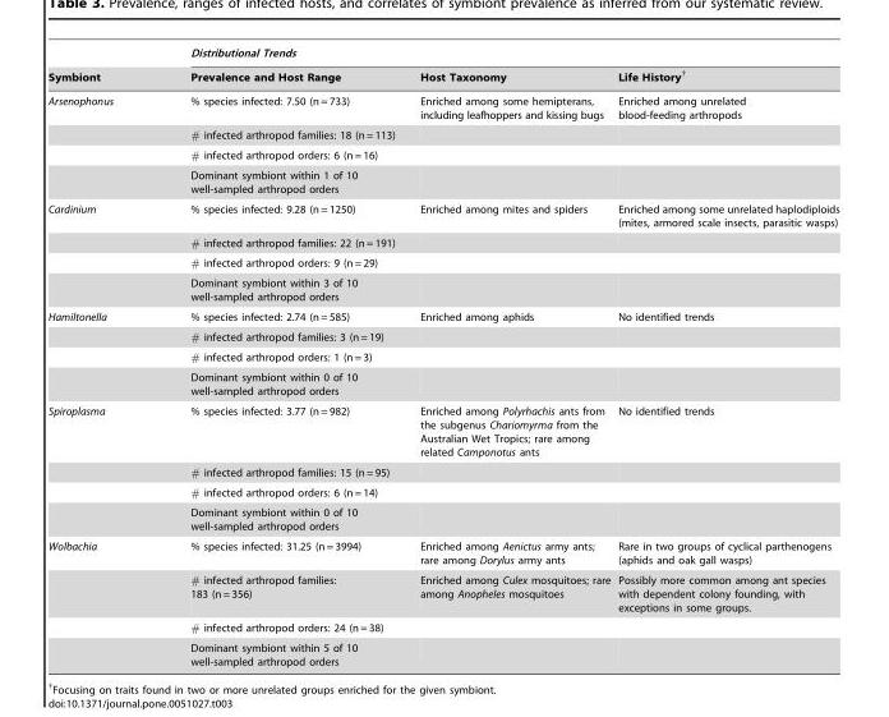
<table><thead><tr><td rowspan="2">Symbiont</td><td colspan="3">Distributional Trends</td></tr><tr><td>Prevalence and Host Range</td><td>Host Taxonomy</td><td>Life History†</td></tr></thead><tbody><tr><td rowspan="4">Arsenophonus</td><td>% species infected: 7.50 (n = 733)</td><td>Enriched among some hemipterans, including leafhoppers and kissing bugs</td><td>Enriched among unrelated blood-feeding arthropods</td></tr><tr><td># infected arthropod families: 18 (n = 113)</td><td></td><td></td></tr><tr><td># infected arthropod orders: 6 (n = 16)</td><td></td><td></td></tr><tr><td>Dominant symbiont within 1 of 10 well-sampled arthropod orders</td><td></td><td></td></tr><tr><td rowspan="4">Cardinium</td><td>% species infected: 9.28 (n = 1250)</td><td>Enriched among mites and spiders</td><td>Enriched among some unrelated haplodiploids (mites, armored scale insects, parasitic wasps)</td></tr><tr><td># infected arthropod families: 22 (n = 191)</td><td></td><td></td></tr><tr><td># infected arthropod orders: 9 (n = 29)</td><td></td><td></td></tr><tr><td>Dominant symbiont within 3 of 10 well-sampled arthropod orders</td><td></td><td></td></tr><tr><td rowspan="4">Hamiltonella</td><td>% species infected: 2.74 (n = 585)</td><td>Enriched among aphids</td><td>No identified trends</td></tr><tr><td># infected arthropod families: 3 (n = 19)</td><td></td><td></td></tr><tr><td># infected arthropod orders: 1 (n = 3)</td><td></td><td></td></tr><tr><td>Dominant symbiont within 0 of 10 well-sampled arthropod orders</td><td></td><td></td></tr><tr><td rowspan="4">Spiroplasma</td><td>% species infected: 3.77 (n = 982)</td><td>Enriched among Polyrhachis ants from the subgenus Chariomyrma from the Australian Wet Tropics; rare among related Camponotus ants</td><td>No identified trends</td></tr><tr><td># infected arthropod families: 15 (n = 95)</td><td></td><td></td></tr><tr><td># infected arthropod orders: 6 (n = 14)</td><td></td><td></td></tr><tr><td>Dominant symbiont within 0 of 10 well-sampled arthropod orders</td><td></td><td></td></tr><tr><td rowspan="4">Wolbachia</td><td>% species infected: 31.25 (n = 3994)</td><td>Enriched among Aenictus army ants; rare among Dorylus army ants</td><td>Rare in two groups of cyclical parthenogens (aphids and oak gall wasps)</td></tr><tr><td># infected arthropod families: 183 (n = 356)</td><td>Enriched among Culex mosquitoes; rare among Anopheles mosquitoes</td><td>Possibly more common among ant species with dependent colony founding, with exceptions in some groups.</td></tr><tr><td># infected arthropod orders: 24 (n = 38)</td><td></td><td></td></tr><tr><td>Dominant symbiont within 5 of 10 well-sampled arthropod orders</td><td></td><td></td></tr></tbody></table>